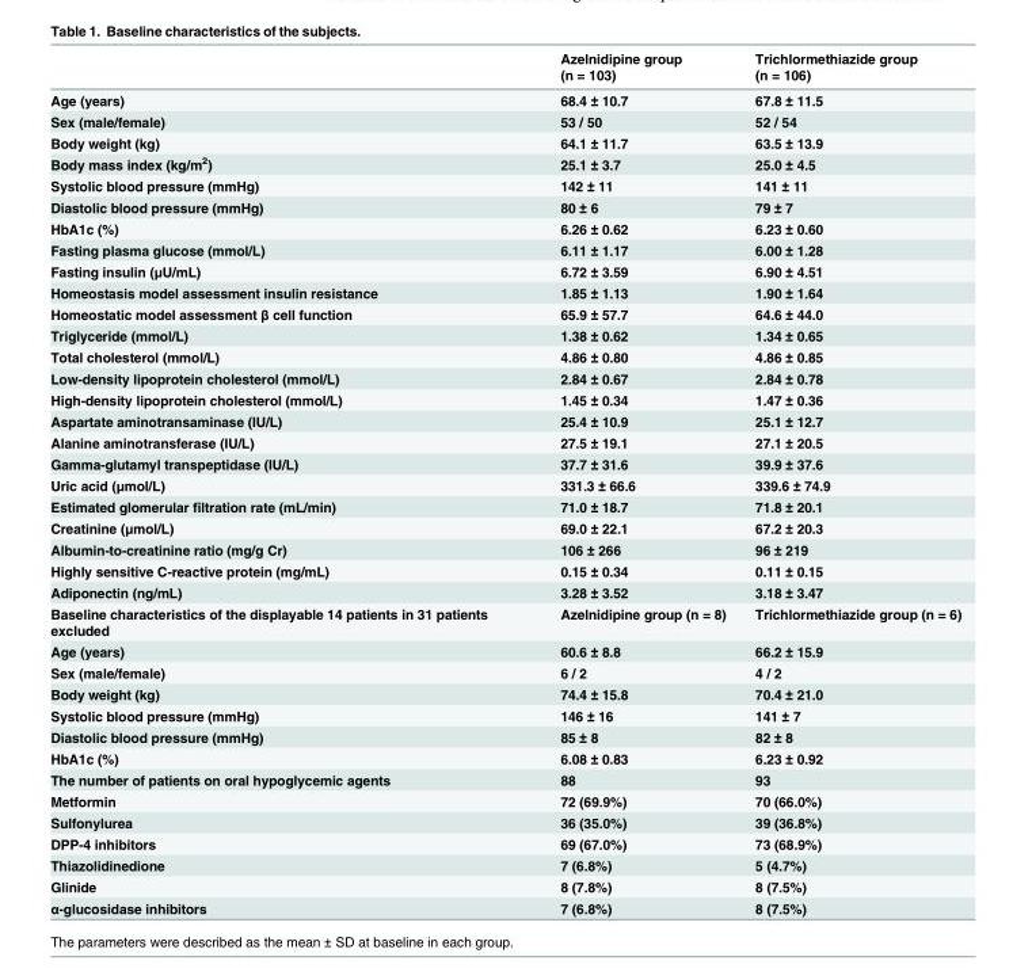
<table><thead><tr><td></td><td>Azelnidipine group (n = 103)</td><td>Trichlormethiazide group (n = 106)</td></tr></thead><tbody><tr><td>Age (years)</td><td>68.4 ± 10.7</td><td>67.8 ± 11.5</td></tr><tr><td>Sex (male/female)</td><td>53 / 50</td><td>52 / 54</td></tr><tr><td>Body weight (kg)</td><td>64.1 ± 11.7</td><td>63.5 ± 13.9</td></tr><tr><td>Body mass index (kg/m<sup>2</sup>)</td><td>25.1 ± 3.7</td><td>25.0 ± 4.5</td></tr><tr><td>Systolic blood pressure (mmHg)</td><td>142 ± 11</td><td>141 ± 11</td></tr><tr><td>Diastolic blood pressure (mmHg)</td><td>80 ± 6</td><td>79 ± 7</td></tr><tr><td>HbA1c (%)</td><td>6.26 ± 0.62</td><td>6.23 ± 0.60</td></tr><tr><td>Fasting plasma glucose (mmol/L)</td><td>6.11 ± 1.17</td><td>6.00 ± 1.28</td></tr><tr><td>Fasting insulin (μU/mL)</td><td>6.72 ± 3.59</td><td>6.90 ± 4.51</td></tr><tr><td>Homeostasis model assessment insulin resistance</td><td>1.85 ± 1.13</td><td>1.90 ± 1.64</td></tr><tr><td>Homeostatic model assessment β cell function</td><td>65.9 ± 57.7</td><td>64.6 ± 44.0</td></tr><tr><td>Triglyceride (mmol/L)</td><td>1.38 ± 0.62</td><td>1.34 ± 0.65</td></tr><tr><td>Total cholesterol (mmol/L)</td><td>4.86 ± 0.80</td><td>4.86 ± 0.85</td></tr><tr><td>Low-density lipoprotein cholesterol (mmol/L)</td><td>2.84 ± 0.67</td><td>2.84 ± 0.78</td></tr><tr><td>High-density lipoprotein cholesterol (mmol/L)</td><td>1.45 ± 0.34</td><td>1.47 ± 0.36</td></tr><tr><td>Aspartate aminotransaminase (IU/L)</td><td>25.4 ± 10.9</td><td>25.1 ± 12.7</td></tr><tr><td>Alanine aminotransferase (IU/L)</td><td>27.5 ± 19.1</td><td>27.1 ± 20.5</td></tr><tr><td>Gamma-glutamyl transpeptidase (IU/L)</td><td>37.7 ± 31.6</td><td>39.9 ± 37.6</td></tr><tr><td>Uric acid (μmol/L)</td><td>331.3 ± 66.6</td><td>339.6 ± 74.9</td></tr><tr><td>Estimated glomerular filtration rate (mL/min)</td><td>71.0 ± 18.7</td><td>71.8 ± 20.1</td></tr><tr><td>Creatinine (μmol/L)</td><td>69.0 ± 22.1</td><td>67.2 ± 20.3</td></tr><tr><td>Albumin-to-creatinine ratio (mg/g Cr)</td><td>106 ± 266</td><td>96 ± 219</td></tr><tr><td>Highly sensitive C-reactive protein (mg/mL)</td><td>0.15 ± 0.34</td><td>0.11 ± 0.15</td></tr><tr><td>Adiponectin (ng/mL)</td><td>3.28 ± 3.52</td><td>3.18 ± 3.47</td></tr><tr><td>Baseline characteristics of the displayable 14 patients in 31 patients excluded</td><td>Azelnidipine group (n = 8)</td><td>Trichlormethiazide group (n = 6)</td></tr><tr><td>Age (years)</td><td>60.6 ± 8.8</td><td>66.2 ± 15.9</td></tr><tr><td>Sex (male/female)</td><td>6 / 2</td><td>4 / 2</td></tr><tr><td>Body weight (kg)</td><td>74.4 ± 15.8</td><td>70.4 ± 21.0</td></tr><tr><td>Systolic blood pressure (mmHg)</td><td>146 ± 16</td><td>141 ± 7</td></tr><tr><td>Diastolic blood pressure (mmHg)</td><td>85 ± 8</td><td>82 ± 8</td></tr><tr><td>HbA1c (%)</td><td>6.08 ± 0.83</td><td>6.23 ± 0.92</td></tr><tr><td>The number of patients on oral hypoglycemic agents</td><td>88</td><td>93</td></tr><tr><td>Metformin</td><td>72 (69.9%)</td><td>70 (66.0%)</td></tr><tr><td>Sulfonylurea</td><td>36 (35.0%)</td><td>39 (36.8%)</td></tr><tr><td>DPP-4 inhibitors</td><td>69 (67.0%)</td><td>73 (68.9%)</td></tr><tr><td>Thiazolidinedione</td><td>7 (6.8%)</td><td>5 (4.7%)</td></tr><tr><td>Glinide</td><td>8 (7.8%)</td><td>8 (7.5%)</td></tr><tr><td>α-glucosidase inhibitors</td><td>7 (6.8%)</td><td>8 (7.5%)</td></tr></tbody></table>